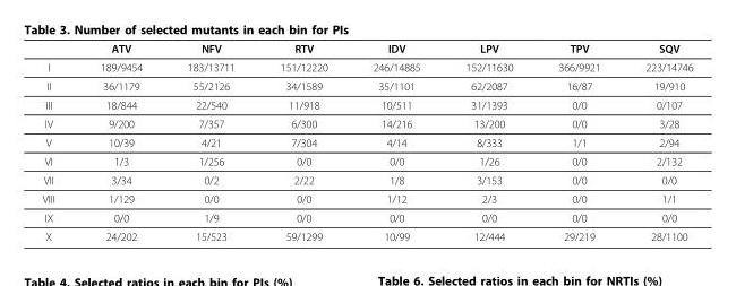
<table><thead><tr><td></td><td>ATV</td><td>NFV</td><td>RTV</td><td>IDV</td><td>LPV</td><td>TPV</td><td>SQV</td></tr></thead><tbody><tr><td>I</td><td>189/9454</td><td>183/13711</td><td>151/12220</td><td>246/14885</td><td>152/11630</td><td>366/9921</td><td>223/14746</td></tr><tr><td>II</td><td>36/1179</td><td>55/2126</td><td>34/1589</td><td>35/1101</td><td>62/2087</td><td>16/87</td><td>19/910</td></tr><tr><td>III</td><td>18/844</td><td>22/540</td><td>11/918</td><td>10/511</td><td>31/1393</td><td>0/0</td><td>0/107</td></tr><tr><td>IV</td><td>9/200</td><td>7/357</td><td>6/300</td><td>14/216</td><td>13/200</td><td>0/0</td><td>3/28</td></tr><tr><td>V</td><td>10/39</td><td>4/21</td><td>7/304</td><td>4/14</td><td>8/333</td><td>1/1</td><td>2/94</td></tr><tr><td>VI</td><td>1/3</td><td>1/256</td><td>0/0</td><td>0/0</td><td>1/26</td><td>0/0</td><td>2/132</td></tr><tr><td>VII</td><td>3/34</td><td>0/2</td><td>2/22</td><td>1/8</td><td>3/153</td><td>0/0</td><td>0/0</td></tr><tr><td>VIII</td><td>1/129</td><td>0/0</td><td>0/0</td><td>1/12</td><td>2/3</td><td>0/0</td><td>1/1</td></tr><tr><td>IX</td><td>0/0</td><td>1/9</td><td>0/0</td><td>0/0</td><td>0/0</td><td>0/0</td><td>0/0</td></tr><tr><td>X</td><td>24/202</td><td>15/523</td><td>59/1299</td><td>10/99</td><td>12/444</td><td>29/219</td><td>28/1100</td></tr></tbody></table>